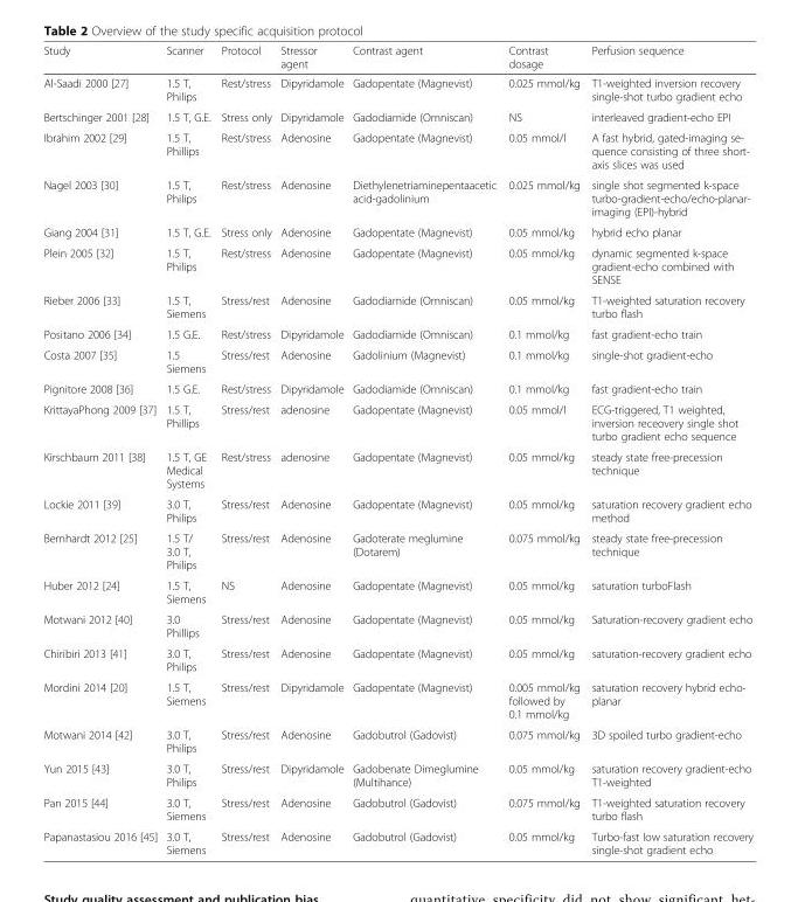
<table><thead><tr><td>Study</td><td>Scanner</td><td>Protocol</td><td>Stressor agent</td><td>Contrast agent</td><td>Contrast dosage</td><td>Perfusion sequence</td></tr></thead><tbody><tr><td>Al-Saadi 2000 [27]</td><td>1.5 T, Philips</td><td>Rest/stress</td><td>Dipyridamole</td><td>Gadopentate (Magnevist)</td><td>0.025 mmol/kg</td><td>T1-weighted inversion recovery single-shot turbo gradient echo</td></tr><tr><td>Bertschinger 2001 [28]</td><td>1.5 T, G.E.</td><td>Stress only</td><td>Dipyridamole</td><td>Gadodiamide (Omniscan)</td><td>NS</td><td>interleaved gradient-echo EPI</td></tr><tr><td>Ibrahim 2002 [29]</td><td>1.5 T, Phillips</td><td>Rest/stress</td><td>Adenosine</td><td>Gadopentate (Magnevist)</td><td>0.05 mmol/l</td><td>A fast hybrid, gated-imaging se- quence consisting of three short- axis slices was used</td></tr><tr><td>Nagel 2003 [30]</td><td>1.5 T, Philips</td><td>Rest/stress</td><td>Adenosine</td><td>Diethylenetriaminepentaacetic acid-gadolinium</td><td>0.025 mmol/kg</td><td>single shot segmented k-space turbo-gradient-echo/echo-planar- imaging (EPI)-hybrid</td></tr><tr><td>Giang 2004 [31]</td><td>1.5 T, G.E.</td><td>Stress only</td><td>Adenosine</td><td>Gadopentate (Magnevist)</td><td>0.05 mmol/kg</td><td>hybrid echo planar</td></tr><tr><td>Plein 2005 [32]</td><td>1.5 T, Philips</td><td>Rest/stress</td><td>Adenosine</td><td>Gadopentate (Magnevist)</td><td>0.05 mmol/kg</td><td>dynamic segmented k-space gradient-echo combined with SENSE</td></tr><tr><td>Rieber 2006 [33]</td><td>1.5 T, Siemens</td><td>Stress/rest</td><td>Adenosine</td><td>Gadodiamide (Omniscan)</td><td>0.05 mmol/kg</td><td>T1-weighted saturation recovery turbo flash</td></tr><tr><td>Positano 2006 [34]</td><td>1.5 G.E.</td><td>Rest/stress</td><td>Dipyridamole</td><td>Gadodiamide (Omniscan)</td><td>0.1 mmol/kg</td><td>fast gradient-echo train</td></tr><tr><td>Costa 2007 [35]</td><td>1.5 Siemens</td><td>Stress/rest</td><td>Adenosine</td><td>Gadolinium (Magnevist)</td><td>0.1 mmol/kg</td><td>single-shot gradient-echo</td></tr><tr><td>Pignitore 2008 [36]</td><td>1.5 G.E.</td><td>Rest/stress</td><td>Dipyridamole</td><td>Gadodiamide (Omniscan)</td><td>0.1 mmol/kg</td><td>fast gradient-echo train</td></tr><tr><td>KrittayaPhong 2009 [37]</td><td>1.5 T, Phillips</td><td>Stress/rest</td><td>adenosine</td><td>Gadopentate (Magnevist)</td><td>0.05 mmol/l</td><td>ECG-triggered, T1 weighted, inversion receovery single shot turbo gradient echo sequence</td></tr><tr><td>Kirschbaum 2011 [38]</td><td>1.5 T, GE Medical Systems</td><td>Rest/stress</td><td>adenosine</td><td>Gadopentate (Magnevist)</td><td>0.05 mmol/kg</td><td>steady state free-precession technique</td></tr><tr><td>Lockie 2011 [39]</td><td>3.0 T, Philips</td><td>Stress/rest</td><td>Adenosine</td><td>Gadopentate (Magnevist)</td><td>0.05 mmol/kg</td><td>saturation recovery gradient echo method</td></tr><tr><td>Bernhardt 2012 [25]</td><td>1.5 T/ 3.0 T, Philips</td><td>Stress/rest</td><td>Adenosine</td><td>Gadoterate meglumine (Dotarem)</td><td>0.075 mmol/kg</td><td>steady state free-precession technique</td></tr><tr><td>Huber 2012 [24]</td><td>1.5 T, Siemens</td><td>NS</td><td>Adenosine</td><td>Gadopentate (Magnevist)</td><td>0.05 mmol/kg</td><td>saturation turboFlash</td></tr><tr><td>Motwani 2012 [40]</td><td>3.0 Phillips</td><td>Stress/rest</td><td>Adenosine</td><td>Gadopentate (Magnevist)</td><td>0.05 mmol/kg</td><td>Saturation-recovery gradient echo</td></tr><tr><td>Chiribiri 2013 [41]</td><td>3.0 T, Philips</td><td>Stress/rest</td><td>Adenosine</td><td>Gadopentate (Magnevist)</td><td>0.05 mmol/kg</td><td>saturation-recovery gradient echo</td></tr><tr><td>Mordini 2014 [20]</td><td>1.5 T, Siemens</td><td>Stress/rest</td><td>Dipyridamole</td><td>Gadopentate (Magnevist)</td><td>0.005 mmol/kg followed by 0.1 mmol/kg</td><td>saturation recovery hybrid echo- planar</td></tr><tr><td>Motwani 2014 [42]</td><td>3.0 T, Philips</td><td>Stress/rest</td><td>Adenosine</td><td>Gadobutrol (Gadovist)</td><td>0.075 mmol/kg</td><td>3D spoiled turbo gradient-echo</td></tr><tr><td>Yun 2015 [43]</td><td>3.0 T, Philips</td><td>Stress/rest</td><td>Dipyridamole</td><td>Gadobenate Dimeglumine (Multihance)</td><td>0.05 mmol/kg</td><td>saturation recovery gradient-echo T1-weighted</td></tr><tr><td>Pan 2015 [44]</td><td>3.0 T, Siemens</td><td>Stress/rest</td><td>Adenosine</td><td>Gadobutrol (Gadovist)</td><td>0.075 mmol/kg</td><td>T1-weighted saturation recovery turbo flash</td></tr><tr><td>Papanastasiou 2016 [45]</td><td>3.0 T, Siemens</td><td>Stress/rest</td><td>Adenosine</td><td>Gadobutrol (Gadovist)</td><td>0.05 mmol/kg</td><td>Turbo-fast low saturation recovery single-shot gradient echo</td></tr></tbody></table>